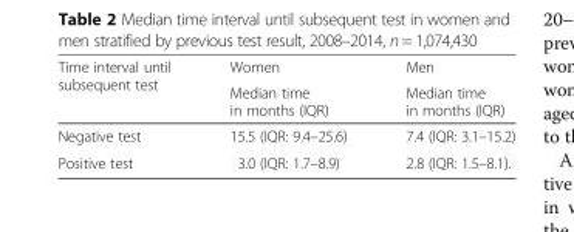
<table><thead><tr><td rowspan="2">Time interval until subsequent test</td><td rowspan="2">Women Median time in months (IQR)</td><td rowspan="2">Men Median time in months (IQR)</td></tr><tr></tr></thead><tbody><tr><td>Negative test</td><td>15.5 (IQR: 9.4–25.6)</td><td>7.4 (IQR: 3.1–15.2)</td></tr><tr><td>Positive test</td><td>3.0 (IQR: 1.7–8.9)</td><td>2.8 (IQR: 1.5–8.1).</td></tr></tbody></table>